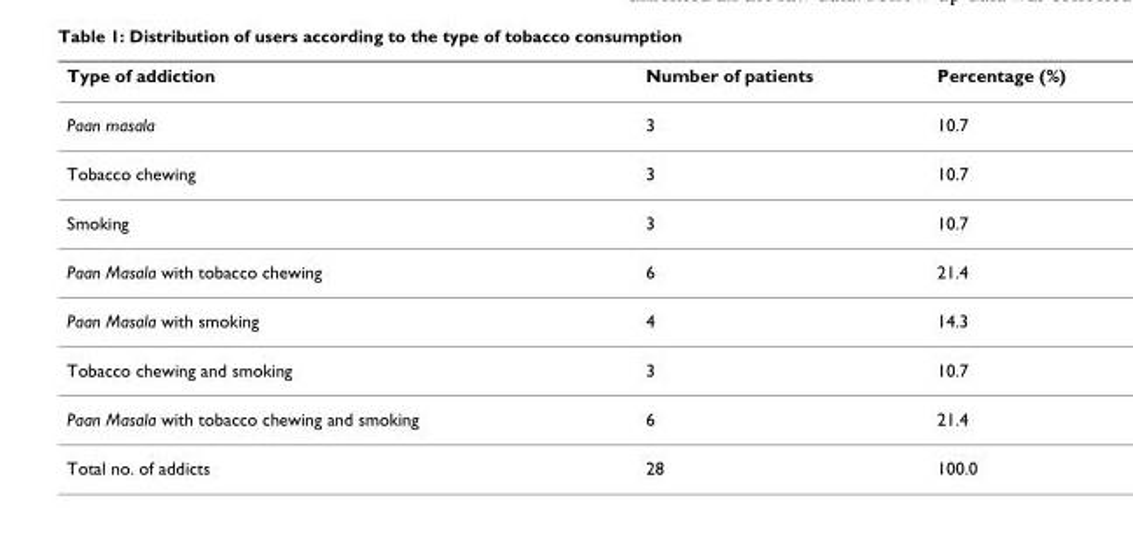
<table><thead><tr><td>Type of addiction</td><td>Number of patients</td><td>Percentage (%)</td></tr></thead><tbody><tr><td>Paan masala</td><td>3</td><td>10.7</td></tr><tr><td>Tobacco chewing</td><td>3</td><td>10.7</td></tr><tr><td>Smoking</td><td>3</td><td>10.7</td></tr><tr><td>Paan Masala with tobacco chewing</td><td>6</td><td>21.4</td></tr><tr><td>Paan Masala with smoking</td><td>4</td><td>14.3</td></tr><tr><td>Tobacco chewing and smoking</td><td>3</td><td>10.7</td></tr><tr><td>Paan Masala with tobacco chewing and smoking</td><td>6</td><td>21.4</td></tr><tr><td>Total no. of addicts</td><td>28</td><td>100.0</td></tr></tbody></table>